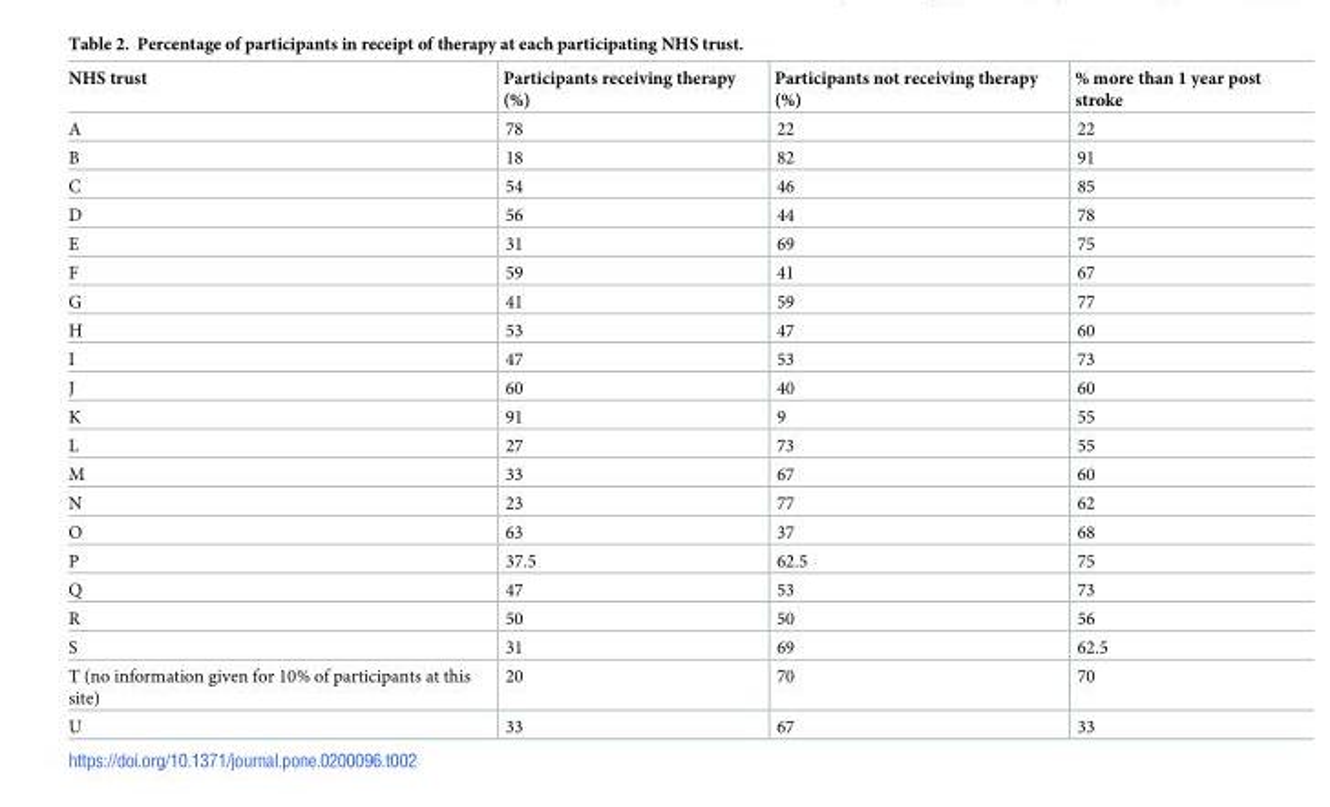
<table><thead><tr><td>NHS trust</td><td>Participants receiving therapy (%)</td><td>Participants not receiving therapy (%)</td><td>% more than 1 year post stroke</td></tr></thead><tbody><tr><td>A</td><td>78</td><td>22</td><td>22</td></tr><tr><td>B</td><td>18</td><td>82</td><td>91</td></tr><tr><td>C</td><td>54</td><td>46</td><td>85</td></tr><tr><td>D</td><td>56</td><td>44</td><td>78</td></tr><tr><td>E</td><td>31</td><td>69</td><td>75</td></tr><tr><td>F</td><td>59</td><td>41</td><td>67</td></tr><tr><td>G</td><td>41</td><td>59</td><td>77</td></tr><tr><td>H</td><td>53</td><td>47</td><td>60</td></tr><tr><td>I</td><td>47</td><td>53</td><td>73</td></tr><tr><td>J</td><td>60</td><td>40</td><td>60</td></tr><tr><td>K</td><td>91</td><td>9</td><td>55</td></tr><tr><td>L</td><td>27</td><td>73</td><td>55</td></tr><tr><td>M</td><td>33</td><td>67</td><td>60</td></tr><tr><td>N</td><td>23</td><td>77</td><td>62</td></tr><tr><td>O</td><td>63</td><td>37</td><td>68</td></tr><tr><td>P</td><td>37.5</td><td>62.5</td><td>75</td></tr><tr><td>Q</td><td>47</td><td>53</td><td>73</td></tr><tr><td>R</td><td>50</td><td>50</td><td>56</td></tr><tr><td>S</td><td>31</td><td>69</td><td>62.5</td></tr><tr><td>T (no information given for 10% of participants at this site)</td><td>20</td><td>70</td><td>70</td></tr><tr><td>U</td><td>33</td><td>67</td><td>33</td></tr></tbody></table>